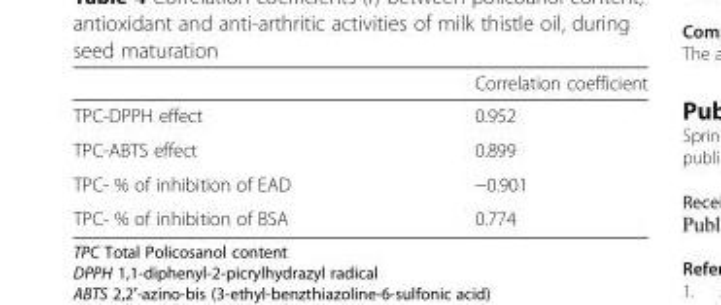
<table><thead><tr><td></td><td>Correlation coefficient</td></tr></thead><tbody><tr><td>TPC-DPPH effect</td><td>0.952</td></tr><tr><td>TPC-ABTS effect</td><td>0.899</td></tr><tr><td>TPC- % of inhibition of EAD</td><td>−0.901</td></tr><tr><td>TPC- % of inhibition of BSA</td><td>0.774</td></tr></tbody></table>